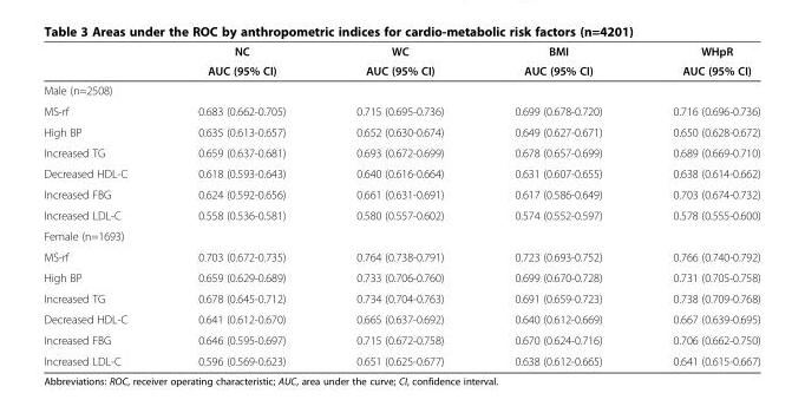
<table><thead><tr><td rowspan="2"></td><td rowspan="2">NC AUC (95% CI)</td><td rowspan="2">WC AUC (95% CI)</td><td rowspan="2">BMI AUC (95% CI)</td><td rowspan="2">WHpR AUC (95% CI)</td></tr><tr></tr></thead><tbody><tr><td colspan="5">Male (n=2508)</td></tr><tr><td>MS-rf</td><td>0.683 (0.662-0.705)</td><td>0.715 (0.695-0.736)</td><td>0.699 (0.678-0.720)</td><td>0.716 (0.696-0.736)</td></tr><tr><td>High BP</td><td>0.635 (0.613-0.657)</td><td>0.652 (0.630-0.674)</td><td>0.649 (0.627-0.671)</td><td>0.650 (0.628-0.672)</td></tr><tr><td>Increased TG</td><td>0.659 (0.637-0.681)</td><td>0.693 (0.672-0.699)</td><td>0.678 (0.657-0.699)</td><td>0.689 (0.669-0.710)</td></tr><tr><td>Decreased HDL-C</td><td>0.618 (0.593-0.643)</td><td>0.640 (0.616-0.664)</td><td>0.631 (0.607-0.655)</td><td>0.638 (0.614-0.662)</td></tr><tr><td>Increased FBG</td><td>0.624 (0.592-0.656)</td><td>0.661 (0.631-0.691)</td><td>0.617 (0.586-0.649)</td><td>0.703 (0.674-0.732)</td></tr><tr><td>Increased LDL-C</td><td>0.558 (0.536-0.581)</td><td>0.580 (0.557-0.602)</td><td>0.574 (0.552-0.597)</td><td>0.578 (0.555-0.600)</td></tr><tr><td colspan="5">Female (n=1693)</td></tr><tr><td>MS-rf</td><td>0.703 (0.672-0.735)</td><td>0.764 (0.738-0.791)</td><td>0.723 (0.693-0.752)</td><td>0.766 (0.740-0.792)</td></tr><tr><td>High BP</td><td>0.659 (0.629-0.689)</td><td>0.733 (0.706-0.760)</td><td>0.699 (0.670-0.728)</td><td>0.731 (0.705-0.758)</td></tr><tr><td>Increased TG</td><td>0.678 (0.645-0.712)</td><td>0.734 (0.704-0.763)</td><td>0.691 (0.659-0.723)</td><td>0.738 (0.709-0.768)</td></tr><tr><td>Decreased HDL-C</td><td>0.641 (0.612-0.670)</td><td>0.665 (0.637-0.692)</td><td>0.640 (0.612-0.669)</td><td>0.667 (0.639-0.695)</td></tr><tr><td>Increased FBG</td><td>0.646 (0.595-0.697)</td><td>0.715 (0.672-0.758)</td><td>0.670 (0.624-0.716)</td><td>0.706 (0.662-0.750)</td></tr><tr><td>Increased LDL-C</td><td>0.596 (0.569-0.623)</td><td>0.651 (0.625-0.677)</td><td>0.638 (0.612-0.665)</td><td>0.641 (0.615-0.667)</td></tr></tbody></table>